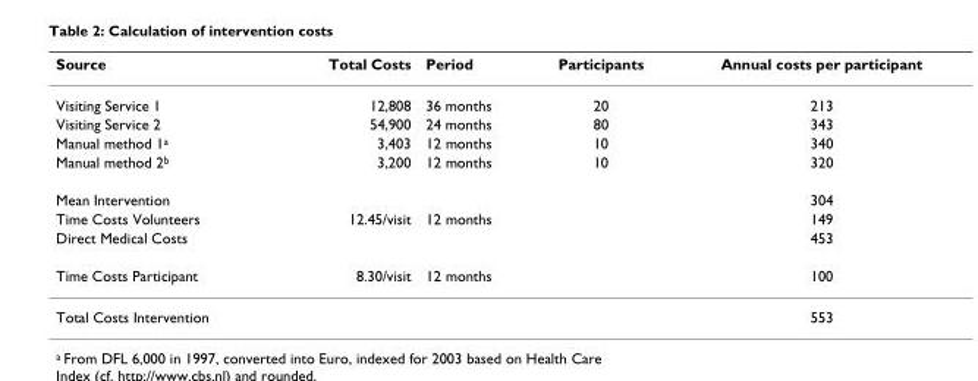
<table><thead><tr><td>Source</td><td>Total Costs</td><td>Period</td><td>Participants</td><td>Annual costs per participant</td></tr></thead><tbody><tr><td>Visiting Service 1</td><td>12,808</td><td>36 months</td><td>20</td><td>213</td></tr><tr><td>Visiting Service 2</td><td>54,900</td><td>24 months</td><td>80</td><td>343</td></tr><tr><td>Manual method 1<sup>a</sup></td><td>3,403</td><td>12 months</td><td>10</td><td>340</td></tr><tr><td>Manual method 2<sup>b</sup></td><td>3,200</td><td>12 months</td><td>10</td><td>320</td></tr><tr><td>Mean Intervention</td><td></td><td></td><td></td><td>304</td></tr><tr><td>Time Costs Volunteers</td><td>12.45/visit</td><td>12 months</td><td></td><td>149</td></tr><tr><td>Direct Medical Costs</td><td></td><td></td><td></td><td>453</td></tr><tr><td>Time Costs Participant</td><td>8.30/visit</td><td>12 months</td><td></td><td>100</td></tr><tr><td>Total Costs Intervention</td><td></td><td></td><td></td><td>553</td></tr></tbody></table>